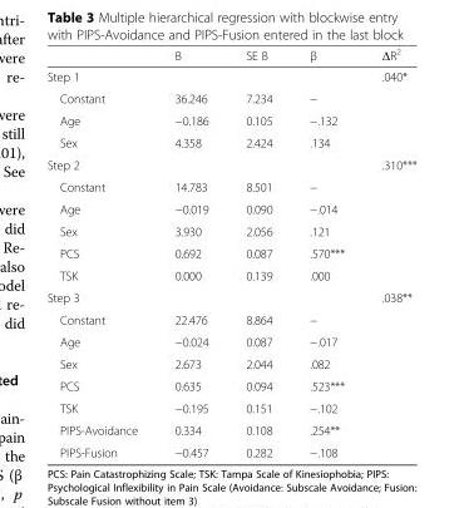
<table><thead><tr><td></td><td>B</td><td>SE B</td><td>β</td><td>ΔR<sup>2</sup></td></tr></thead><tbody><tr><td>Step 1</td><td></td><td></td><td></td><td>.040*</td></tr><tr><td>Constant</td><td>36.246</td><td>7.234</td><td>−</td><td></td></tr><tr><td>Age</td><td>−0.186</td><td>0.105</td><td>−.132</td><td></td></tr><tr><td>Sex</td><td>4.358</td><td>2.424</td><td>.134</td><td></td></tr><tr><td>Step 2</td><td></td><td></td><td></td><td>.310***</td></tr><tr><td>Constant</td><td>14.783</td><td>8.501</td><td>−</td><td></td></tr><tr><td>Age</td><td>−0.019</td><td>0.090</td><td>−.014</td><td></td></tr><tr><td>Sex</td><td>3.930</td><td>2.056</td><td>.121</td><td></td></tr><tr><td>PCS</td><td>0.692</td><td>0.087</td><td>.570***</td><td></td></tr><tr><td>TSK</td><td>0.000</td><td>0.139</td><td>.000</td><td></td></tr><tr><td>Step 3</td><td></td><td></td><td></td><td>.038**</td></tr><tr><td>Constant</td><td>22.476</td><td>8.864</td><td>−</td><td></td></tr><tr><td>Age</td><td>−0.024</td><td>0.087</td><td>−.017</td><td></td></tr><tr><td>Sex</td><td>2.673</td><td>2.044</td><td>.082</td><td></td></tr><tr><td>PCS</td><td>0.635</td><td>0.094</td><td>.523***</td><td></td></tr><tr><td>TSK</td><td>−0.195</td><td>0.151</td><td>−.102</td><td></td></tr><tr><td>PIPS-Avoidance</td><td>0.334</td><td>0.108</td><td>.254**</td><td></td></tr><tr><td>PIPS-Fusion</td><td>−0.457</td><td>0.282</td><td>−.108</td><td></td></tr></tbody></table>